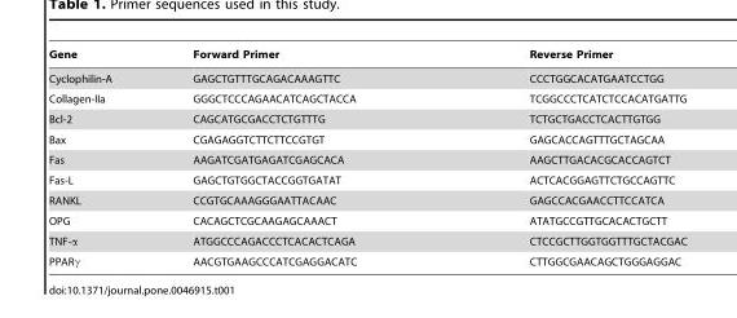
<table><thead><tr><td>Gene</td><td>Forward Primer</td><td>Reverse Primer</td></tr></thead><tbody><tr><td>Cyclophilin-A</td><td>GAGCTGTTTGCAGACAAAGTTC</td><td>CCCTGGCACATGAATCCTGG</td></tr><tr><td>Collagen-IIa</td><td>GGGCTCCCAGAACATCAGCTACCA</td><td>TCGGCCCTCATCTCCACATGATTG</td></tr><tr><td>Bcl-2</td><td>CAGCATGCGACCTCTGTTTG</td><td>TCTGCTGACCTCACTTGTGG</td></tr><tr><td>Bax</td><td>CGAGAGGTCTTCTTCCGTGT</td><td>GAGCACCAGTTTGCTAGCAA</td></tr><tr><td>Fas</td><td>AAGATCGATGAGATCGAGCACA</td><td>AAGCTTGACACGCACCAGTCT</td></tr><tr><td>Fas-L</td><td>GAGCTGTGGCTACCGGTGATAT</td><td>ACTCACGGAGTTCTGCCAGTTC</td></tr><tr><td>RANKL</td><td>CCGTGCAAAGGGAATTACAAC</td><td>GAGCCACGAACCTTCCATCA</td></tr><tr><td>OPG</td><td>CACAGCTCGCAAGAGCAAACT</td><td>ATATGCCGTTGCACACTGCTT</td></tr><tr><td>TNF-α</td><td>ATGGCCCAGACCCTCACACTCAGA</td><td>CTCCGCTTGGTGGTTTGCTACGAC</td></tr><tr><td>PPARγ</td><td>AACGTGAAGCCCATCGAGGACATC</td><td>CTTGGCGAACAGCTGGGAGGAC</td></tr></tbody></table>